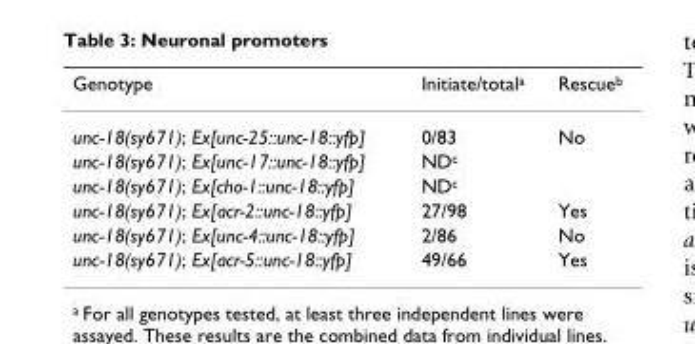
<table><thead><tr><td>Genotype</td><td>Initiate/total<sup>a</sup></td><td>Rescue<sup>b</sup></td></tr></thead><tbody><tr><td>unc-18(sy671); Ex[unc-25::unc-18::yfp]</td><td>0/83</td><td>No</td></tr><tr><td>unc-18(sy671); Ex[unc-17::unc-18::yfp]</td><td>ND<sup>c</sup></td><td></td></tr><tr><td>unc-18(sy671); Ex[cho-1::unc-18::yfp]</td><td>ND<sup>c</sup></td><td></td></tr><tr><td>unc-18(sy671); Ex[acr-2::unc-18::yfp]</td><td>27/98</td><td>Yes</td></tr><tr><td>unc-18(sy671); Ex[unc-4::unc-18::yfp]</td><td>2/86</td><td>No</td></tr><tr><td>unc-18(sy671); Ex[acr-5::unc-18::yfp]</td><td>49/66</td><td>Yes</td></tr></tbody></table>